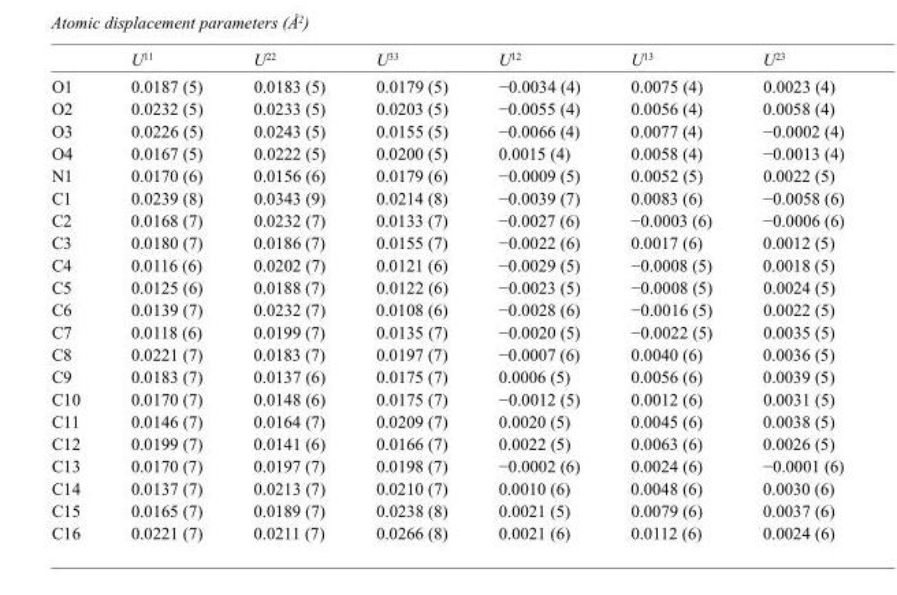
<table><thead><tr><td></td><td>U<sup>11</sup></td><td>U<sup>22</sup></td><td>U<sup>33</sup></td><td>U<sup>12</sup></td><td>U<sup>13</sup></td><td>U<sup>23</sup></td></tr></thead><tbody><tr><td>O1</td><td>0.0187 (5)</td><td>0.0183 (5)</td><td>0.0179 (5)</td><td>−0.0034 (4)</td><td>0.0075 (4)</td><td>0.0023 (4)</td></tr><tr><td>O2</td><td>0.0232 (5)</td><td>0.0233 (5)</td><td>0.0203 (5)</td><td>−0.0055 (4)</td><td>0.0056 (4)</td><td>0.0058 (4)</td></tr><tr><td>O3</td><td>0.0226 (5)</td><td>0.0243 (5)</td><td>0.0155 (5)</td><td>−0.0066 (4)</td><td>0.0077 (4)</td><td>−0.0002 (4)</td></tr><tr><td>O4</td><td>0.0167 (5)</td><td>0.0222 (5)</td><td>0.0200 (5)</td><td>0.0015 (4)</td><td>0.0058 (4)</td><td>−0.0013 (4)</td></tr><tr><td>N1</td><td>0.0170 (6)</td><td>0.0156 (6)</td><td>0.0179 (6)</td><td>−0.0009 (5)</td><td>0.0052 (5)</td><td>0.0022 (5)</td></tr><tr><td>C1</td><td>0.0239 (8)</td><td>0.0343 (9)</td><td>0.0214 (8)</td><td>−0.0039 (7)</td><td>0.0083 (6)</td><td>−0.0058 (6)</td></tr><tr><td>C2</td><td>0.0168 (7)</td><td>0.0232 (7)</td><td>0.0133 (7)</td><td>−0.0027 (6)</td><td>−0.0003 (6)</td><td>−0.0006 (6)</td></tr><tr><td>C3</td><td>0.0180 (7)</td><td>0.0186 (7)</td><td>0.0155 (7)</td><td>−0.0022 (6)</td><td>0.0017 (6)</td><td>0.0012 (5)</td></tr><tr><td>C4</td><td>0.0116 (6)</td><td>0.0202 (7)</td><td>0.0121 (6)</td><td>−0.0029 (5)</td><td>−0.0008 (5)</td><td>0.0018 (5)</td></tr><tr><td>C5</td><td>0.0125 (6)</td><td>0.0188 (7)</td><td>0.0122 (6)</td><td>−0.0023 (5)</td><td>−0.0008 (5)</td><td>0.0024 (5)</td></tr><tr><td>C6</td><td>0.0139 (7)</td><td>0.0232 (7)</td><td>0.0108 (6)</td><td>−0.0028 (6)</td><td>−0.0016 (5)</td><td>0.0022 (5)</td></tr><tr><td>C7</td><td>0.0118 (6)</td><td>0.0199 (7)</td><td>0.0135 (7)</td><td>−0.0020 (5)</td><td>−0.0022 (5)</td><td>0.0035 (5)</td></tr><tr><td>C8</td><td>0.0221 (7)</td><td>0.0183 (7)</td><td>0.0197 (7)</td><td>−0.0007 (6)</td><td>0.0040 (6)</td><td>0.0036 (5)</td></tr><tr><td>C9</td><td>0.0183 (7)</td><td>0.0137 (6)</td><td>0.0175 (7)</td><td>0.0006 (5)</td><td>0.0056 (6)</td><td>0.0039 (5)</td></tr><tr><td>C10</td><td>0.0170 (7)</td><td>0.0148 (6)</td><td>0.0175 (7)</td><td>−0.0012 (5)</td><td>0.0012 (6)</td><td>0.0031 (5)</td></tr><tr><td>C11</td><td>0.0146 (7)</td><td>0.0164 (7)</td><td>0.0209 (7)</td><td>0.0020 (5)</td><td>0.0045 (6)</td><td>0.0038 (5)</td></tr><tr><td>C12</td><td>0.0199 (7)</td><td>0.0141 (6)</td><td>0.0166 (7)</td><td>0.0022 (5)</td><td>0.0063 (6)</td><td>0.0026 (5)</td></tr><tr><td>C13</td><td>0.0170 (7)</td><td>0.0197 (7)</td><td>0.0198 (7)</td><td>−0.0002 (6)</td><td>0.0024 (6)</td><td>−0.0001 (6)</td></tr><tr><td>C14</td><td>0.0137 (7)</td><td>0.0213 (7)</td><td>0.0210 (7)</td><td>0.0010 (6)</td><td>0.0048 (6)</td><td>0.0030 (6)</td></tr><tr><td>C15</td><td>0.0165 (7)</td><td>0.0189 (7)</td><td>0.0238 (8)</td><td>0.0021 (5)</td><td>0.0079 (6)</td><td>0.0037 (6)</td></tr><tr><td>C16</td><td>0.0221 (7)</td><td>0.0211 (7)</td><td>0.0266 (8)</td><td>0.0021 (6)</td><td>0.0112 (6)</td><td>0.0024 (6)</td></tr></tbody></table>